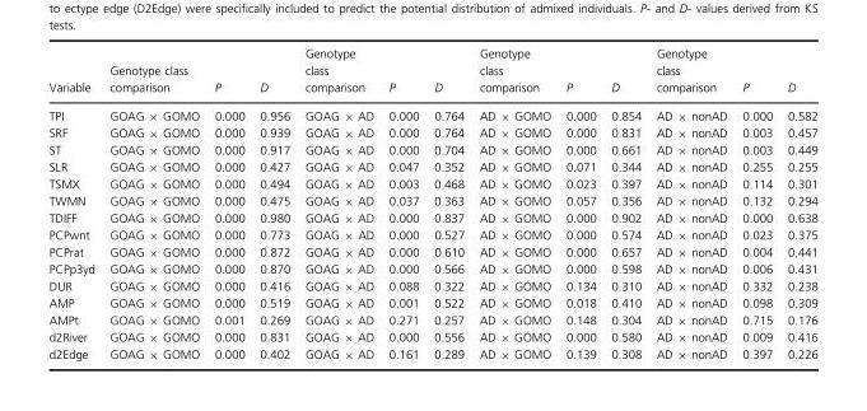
<table><thead><tr><td>Variable</td><td>Genotype class comparison</td><td>P</td><td>D</td><td>Genotype class comparison</td><td>P</td><td>D</td><td>Genotype class comparison</td><td>P</td><td>D</td><td>Genotype class comparison</td><td>P</td><td>D</td></tr></thead><tbody><tr><td>TPI</td><td>GOAG × GOMO</td><td>0.000</td><td>0.956</td><td>GOAG × AD</td><td>0.000</td><td>0.764</td><td>AD × GOMO</td><td>0.000</td><td>0.854</td><td>AD × nonAD</td><td>0.000</td><td>0.582</td></tr><tr><td>SRF</td><td>GOAG × GOMO</td><td>0.000</td><td>0.939</td><td>GOAG × AD</td><td>0.000</td><td>0.764</td><td>AD × GOMO</td><td>0.000</td><td>0.831</td><td>AD × nonAD</td><td>0.003</td><td>0.457</td></tr><tr><td>ST</td><td>GOAG × GOMO</td><td>0.000</td><td>0.917</td><td>GOAG × AD</td><td>0.000</td><td>0.704</td><td>AD × GOMO</td><td>0.000</td><td>0.661</td><td>AD × nonAD</td><td>0.003</td><td>0.449</td></tr><tr><td>SLR</td><td>GOAG × GOMO</td><td>0.000</td><td>0.427</td><td>GOAG × AD</td><td>0.047</td><td>0.352</td><td>AD × GOMO</td><td>0.071</td><td>0.344</td><td>AD × nonAD</td><td>0.255</td><td>0.255</td></tr><tr><td>TSMX</td><td>GOAG × GOMO</td><td>0.000</td><td>0.494</td><td>GOAG × AD</td><td>0.003</td><td>0.468</td><td>AD × GOMO</td><td>0.023</td><td>0.397</td><td>AD × nonAD</td><td>0.114</td><td>0.301</td></tr><tr><td>TWMN</td><td>GOAG × GOMO</td><td>0.000</td><td>0.475</td><td>GOAG × AD</td><td>0.037</td><td>0.363</td><td>AD × GOMO</td><td>0.057</td><td>0.356</td><td>AD × nonAD</td><td>0.132</td><td>0.294</td></tr><tr><td>TDIFF</td><td>GOAG × GOMO</td><td>0.000</td><td>0.980</td><td>GOAG × AD</td><td>0.000</td><td>0.837</td><td>AD × GOMO</td><td>0.000</td><td>0.902</td><td>AD × nonAD</td><td>0.000</td><td>0.638</td></tr><tr><td>PCPwnt</td><td>GOAG × GOMO</td><td>0.000</td><td>0.773</td><td>GOAG × AD</td><td>0.000</td><td>0.527</td><td>AD × GOMO</td><td>0.000</td><td>0.574</td><td>AD × nonAD</td><td>0.023</td><td>0.375</td></tr><tr><td>PCPrat</td><td>GOAG × GOMO</td><td>0.000</td><td>0.872</td><td>GOAG × AD</td><td>0.000</td><td>0.610</td><td>AD × GOMO</td><td>0.000</td><td>0.657</td><td>AD × nonAD</td><td>0.004</td><td>0.441</td></tr><tr><td>PCPp3yd</td><td>GOAG × GOMO</td><td>0.000</td><td>0.870</td><td>GOAG × AD</td><td>0.000</td><td>0.566</td><td>AD × GOMO</td><td>0.000</td><td>0.598</td><td>AD × nonAD</td><td>0.006</td><td>0.431</td></tr><tr><td>DUR</td><td>GOAG × GOMO</td><td>0.000</td><td>0.416</td><td>GOAG × AD</td><td>0.088</td><td>0.322</td><td>AD × GOMO</td><td>0.134</td><td>0.310</td><td>AD × nonAD</td><td>0.332</td><td>0.238</td></tr><tr><td>AMP</td><td>GOAG × GOMO</td><td>0.000</td><td>0.519</td><td>GOAG × AD</td><td>0.001</td><td>0.522</td><td>AD × GOMO</td><td>0.018</td><td>0.410</td><td>AD × nonAD</td><td>0.098</td><td>0.309</td></tr><tr><td>AMPt</td><td>GOAG × GOMO</td><td>0.001</td><td>0.269</td><td>GOAG × AD</td><td>0.271</td><td>0.257</td><td>AD × GOMO</td><td>0.148</td><td>0.304</td><td>AD × nonAD</td><td>0.715</td><td>0.176</td></tr><tr><td>d2River</td><td>GOAG × GOMO</td><td>0.000</td><td>0.831</td><td>GOAG × AD</td><td>0.000</td><td>0.556</td><td>AD × GOMO</td><td>0.000</td><td>0.580</td><td>AD × nonAD</td><td>0.009</td><td>0.416</td></tr><tr><td>d2Edge</td><td>GOAG × GOMO</td><td>0.000</td><td>0.402</td><td>GOAG × AD</td><td>0.161</td><td>0.289</td><td>AD × GOMO</td><td>0.139</td><td>0.308</td><td>AD × nonAD</td><td>0.397</td><td>0.226</td></tr></tbody></table>